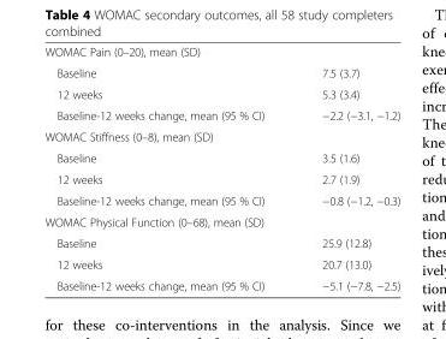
<table><tbody><tr><td colspan="2">WOMAC Pain (0–20), mean (SD)</td></tr><tr><td>Baseline</td><td>7.5 (3.7)</td></tr><tr><td>12 weeks</td><td>5.3 (3.4)</td></tr><tr><td>Baseline-12 weeks change, mean (95 % CI)</td><td>−2.2 (−3.1, −1.2)</td></tr><tr><td colspan="2">WOMAC Stiffness (0–8), mean (SD)</td></tr><tr><td>Baseline</td><td>3.5 (1.6)</td></tr><tr><td>12 weeks</td><td>2.7 (1.9)</td></tr><tr><td>Baseline-12 weeks change, mean (95 % CI)</td><td>−0.8 (−1.2, −0.3)</td></tr><tr><td colspan="2">WOMAC Physical Function (0–68), mean (SD)</td></tr><tr><td>Baseline</td><td>25.9 (12.8)</td></tr><tr><td>12 weeks</td><td>20.7 (13.0)</td></tr><tr><td>Baseline-12 weeks change, mean (95 % CI)</td><td>−5.1 (−7.8, −2.5)</td></tr></tbody></table>